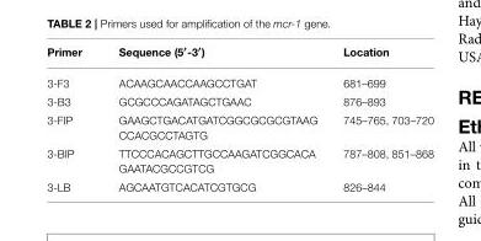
<table><thead><tr><td>Primer</td><td>Sequence (5′-3′)</td><td>Location</td></tr></thead><tbody><tr><td>3-F3</td><td>ACAAGCAACCAAGCCTGAT</td><td>681–699</td></tr><tr><td>3-B3</td><td>GCGCCCAGATAGCTGAAC</td><td>876–893</td></tr><tr><td>3-FIP</td><td>GAAGCTGACATGATCGGCGCGCGTAAG CCACGCCTAGTG</td><td>745–765, 703–720</td></tr><tr><td>3-BIP</td><td>TTCCCACAGCTTGCCAAGATCGGCACA GAATACGCCGTCG</td><td>787–808, 851–868</td></tr><tr><td>3-LB</td><td>AGCAATGTCACATCGTGCG</td><td>826–844</td></tr></tbody></table>